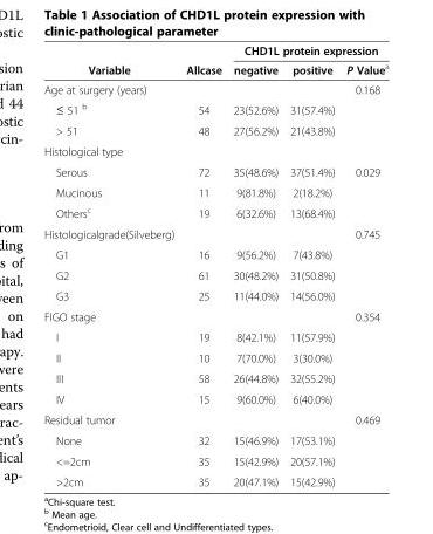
<table><thead><tr><td rowspan="2">Variable</td><td rowspan="2">Allcase</td><td colspan="3">CHD1L protein expression</td></tr><tr><td>negative</td><td>positive</td><td>P Value<sup>a</sup></td></tr></thead><tbody><tr><td>Age at surgery (years)</td><td></td><td></td><td></td><td>0.168</td></tr><tr><td>≤ 51 <sup>b</sup></td><td>54</td><td>23(52.6%)</td><td>31(57.4%)</td><td></td></tr><tr><td>&gt; 51</td><td>48</td><td>27(56.2%)</td><td>21(43.8%)</td><td></td></tr><tr><td colspan="5">Histological type</td></tr><tr><td>Serous</td><td>72</td><td>35(48.6%)</td><td>37(51.4%)</td><td>0.029</td></tr><tr><td>Mucinous</td><td>11</td><td>9(81.8%)</td><td>2(18.2%)</td><td></td></tr><tr><td>Others<sup>c</sup></td><td>19</td><td>6(32.6%)</td><td>13(68.4%)</td><td></td></tr><tr><td>Histologicalgrade(Silveberg)</td><td></td><td></td><td></td><td>0.745</td></tr><tr><td>G1</td><td>16</td><td>9(56.2%)</td><td>7(43.8%)</td><td></td></tr><tr><td>G2</td><td>61</td><td>30(48.2%)</td><td>31(50.8%)</td><td></td></tr><tr><td>G3</td><td>25</td><td>11(44.0%)</td><td>14(56.0%)</td><td></td></tr><tr><td>FIGO stage</td><td></td><td></td><td></td><td>0.354</td></tr><tr><td>I</td><td>19</td><td>8(42.1%)</td><td>11(57.9%)</td><td></td></tr><tr><td>II</td><td>10</td><td>7(70.0%)</td><td>3(30.0%)</td><td></td></tr><tr><td>III</td><td>58</td><td>26(44.8%)</td><td>32(55.2%)</td><td></td></tr><tr><td>IV</td><td>15</td><td>9(60.0%)</td><td>6(40.0%)</td><td></td></tr><tr><td>Residual tumor</td><td></td><td></td><td></td><td>0.469</td></tr><tr><td>None</td><td>32</td><td>15(46.9%)</td><td>17(53.1%)</td><td></td></tr><tr><td>&lt;=2cm</td><td>35</td><td>15(42.9%)</td><td>20(57.1%)</td><td></td></tr><tr><td>&gt;2cm</td><td>35</td><td>20(47.1%)</td><td>15(42.9%)</td><td></td></tr></tbody></table>